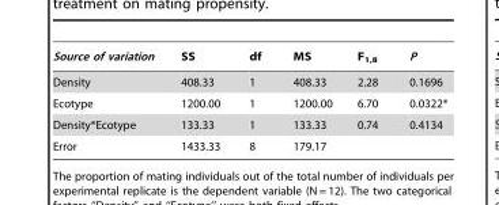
<table><thead><tr><td>Source of variation</td><td>SS</td><td>df</td><td>MS</td><td>F<sub>1,8</sub></td><td>P</td></tr></thead><tbody><tr><td>Density</td><td>408.33</td><td>1</td><td>408.33</td><td>2.28</td><td>0.1696</td></tr><tr><td>Ecotype</td><td>1200.00</td><td>1</td><td>1200.00</td><td>6.70</td><td>0.0322*</td></tr><tr><td>Density*Ecotype</td><td>133.33</td><td>1</td><td>133.33</td><td>0.74</td><td>0.4134</td></tr><tr><td>Error</td><td>1433.33</td><td>8</td><td>179.17</td><td></td><td></td></tr></tbody></table>